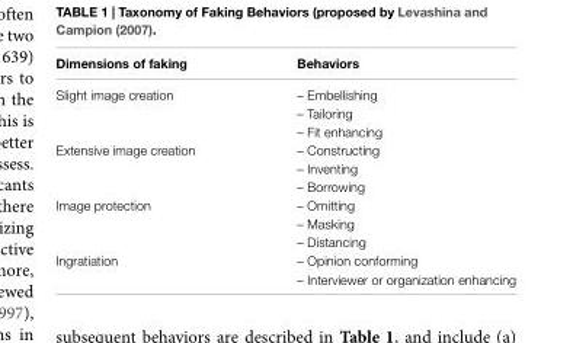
<table><thead><tr><td>Dimensions of faking</td><td>Behaviors</td></tr></thead><tbody><tr><td rowspan="3">Slight image creation</td><td>– Embellishing</td></tr><tr><td>– Tailoring</td></tr><tr><td>– Fit enhancing</td></tr><tr><td rowspan="3">Extensive image creation</td><td>– Constructing</td></tr><tr><td>– Inventing</td></tr><tr><td>– Borrowing</td></tr><tr><td rowspan="3">Image protection</td><td>– Omitting</td></tr><tr><td>– Masking</td></tr><tr><td>– Distancing</td></tr><tr><td rowspan="2">Ingratiation</td><td>– Opinion conforming</td></tr><tr><td>– Interviewer or organization enhancing</td></tr></tbody></table>